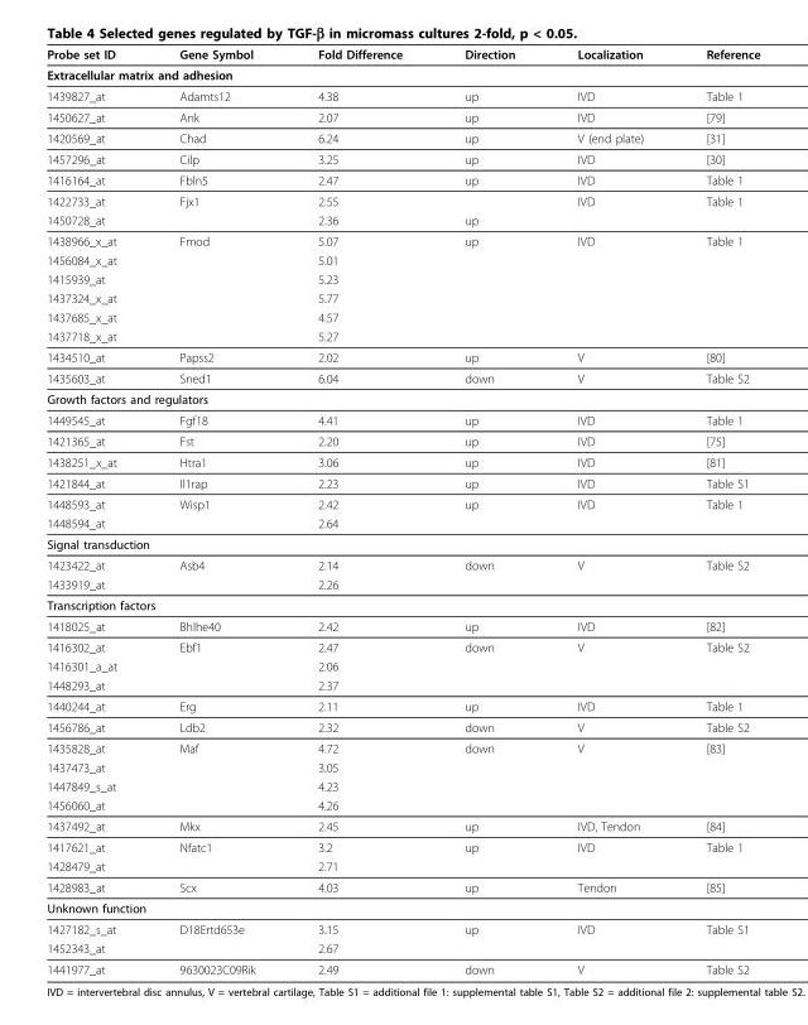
<table><thead><tr><td>Probe set ID</td><td>Gene Symbol</td><td>Fold Difference</td><td>Direction</td><td>Localization</td><td>Reference</td></tr></thead><tbody><tr><td colspan="6">Extracellular matrix and adhesion</td></tr><tr><td>1439827_at</td><td>Adamts12</td><td>4.38</td><td>up</td><td>IVD</td><td>Table 1</td></tr><tr><td>1450627_at</td><td>Ank</td><td>2.07</td><td>up</td><td>IVD</td><td>[79]</td></tr><tr><td>1420569_at</td><td>Chad</td><td>6.24</td><td>up</td><td>V (end plate)</td><td>[31]</td></tr><tr><td>1457296_at</td><td>Cilp</td><td>3.25</td><td>up</td><td>IVD</td><td>[30]</td></tr><tr><td>1416164_at</td><td>Fbln5</td><td>2.47</td><td>up</td><td>IVD</td><td>Table 1</td></tr><tr><td>1422733_at</td><td>Fjx1</td><td>2.55</td><td></td><td>IVD</td><td>Table 1</td></tr><tr><td>1450728_at</td><td></td><td>2.36</td><td>up</td><td></td><td></td></tr><tr><td>1438966_x_at</td><td>Fmod</td><td>5.07</td><td>up</td><td>IVD</td><td>Table 1</td></tr><tr><td>1456084_x_at</td><td></td><td>5.01</td><td></td><td></td><td></td></tr><tr><td>1415939_at</td><td></td><td>5.23</td><td></td><td></td><td></td></tr><tr><td>1437324_x_at</td><td></td><td>5.77</td><td></td><td></td><td></td></tr><tr><td>1437685_x_at</td><td></td><td>4.57</td><td></td><td></td><td></td></tr><tr><td>1437718_x_at</td><td></td><td>5.27</td><td></td><td></td><td></td></tr><tr><td>1434510_at</td><td>Papss2</td><td>2.02</td><td>up</td><td>V</td><td>[80]</td></tr><tr><td>1435603_at</td><td>Sned1</td><td>6.04</td><td>down</td><td>V</td><td>Table S2</td></tr><tr><td colspan="6">Growth factors and regulators</td></tr><tr><td>1449545_at</td><td>Fgf18</td><td>4.41</td><td>up</td><td>IVD</td><td>Table 1</td></tr><tr><td>1421365_at</td><td>Fst</td><td>2.20</td><td>up</td><td>IVD</td><td>[75]</td></tr><tr><td>1438251_x_at</td><td>Htra1</td><td>3.06</td><td>up</td><td>IVD</td><td>[81]</td></tr><tr><td>1421844_at</td><td>Il1rap</td><td>2.23</td><td>up</td><td>IVD</td><td>Table S1</td></tr><tr><td>1448593_at</td><td>Wisp1</td><td>2.42</td><td>up</td><td>IVD</td><td>Table 1</td></tr><tr><td>1448594_at</td><td></td><td>2.64</td><td></td><td></td><td></td></tr><tr><td colspan="6">Signal transduction</td></tr><tr><td>1423422_at</td><td>Asb4</td><td>2.14</td><td>down</td><td>V</td><td>Table S2</td></tr><tr><td>1433919_at</td><td></td><td>2.26</td><td></td><td></td><td></td></tr><tr><td colspan="6">Transcription factors</td></tr><tr><td>1418025_at</td><td>Bhlhe40</td><td>2.42</td><td>up</td><td>IVD</td><td>[82]</td></tr><tr><td>1416302_at</td><td>Ebf1</td><td>2.47</td><td>down</td><td>V</td><td>Table S2</td></tr><tr><td>1416301_a_at</td><td></td><td>2.06</td><td></td><td></td><td></td></tr><tr><td>1448293_at</td><td></td><td>2.37</td><td></td><td></td><td></td></tr><tr><td>1440244_at</td><td>Erg</td><td>2.11</td><td>up</td><td>IVD</td><td>Table 1</td></tr><tr><td>1456786_at</td><td>Ldb2</td><td>2.32</td><td>down</td><td>V</td><td>Table S2</td></tr><tr><td>1435828_at</td><td>Maf</td><td>4.72</td><td>down</td><td>V</td><td>[83]</td></tr><tr><td>1437473_at</td><td></td><td>3.05</td><td></td><td></td><td></td></tr><tr><td>1447849_s_at</td><td></td><td>4.23</td><td></td><td></td><td></td></tr><tr><td>1456060_at</td><td></td><td>4.26</td><td></td><td></td><td></td></tr><tr><td>1437492_at</td><td>Mkx</td><td>2.45</td><td>up</td><td>IVD, Tendon</td><td>[84]</td></tr><tr><td>1417621_at</td><td>Nfatc1</td><td>3.2</td><td>up</td><td>IVD</td><td>Table 1</td></tr><tr><td>1428479_at</td><td></td><td>2.71</td><td></td><td></td><td></td></tr><tr><td>1428983_at</td><td>Scx</td><td>4.03</td><td>up</td><td>Tendon</td><td>[85]</td></tr><tr><td colspan="6">Unknown function</td></tr><tr><td>1427182_s_at</td><td>D18Ertd653e</td><td>3.15</td><td>up</td><td>IVD</td><td>Table S1</td></tr><tr><td>1452343_at</td><td></td><td>2.67</td><td></td><td></td><td></td></tr><tr><td>1441977_at</td><td>9630023C09Rik</td><td>2.49</td><td>down</td><td>V</td><td>Table S2</td></tr></tbody></table>